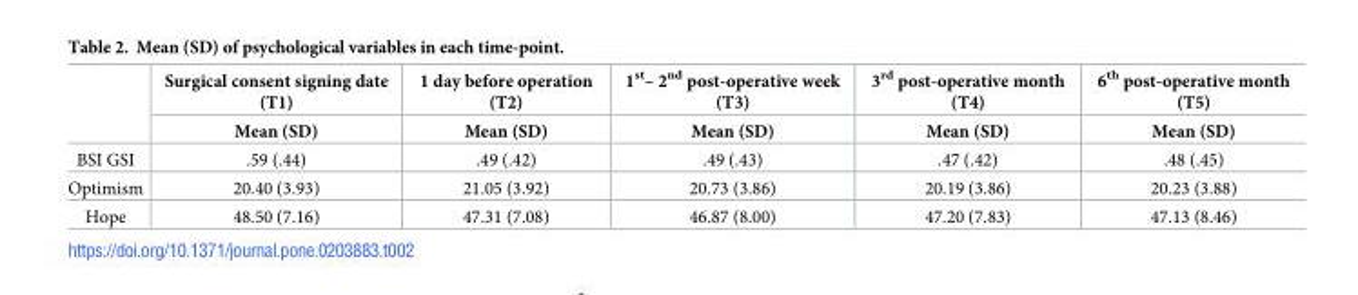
<table><thead><tr><td rowspan="2"></td><td rowspan="2">Surgical consent signing date (T1) Mean (SD)</td><td rowspan="2">1 day before operation (T2) Mean (SD)</td><td rowspan="2">1<sup>st</sup>– 2<sup>nd</sup> post-operative week (T3) Mean (SD)</td><td rowspan="2">3<sup>rd</sup> post-operative month (T4) Mean (SD)</td><td rowspan="2">6<sup>th</sup> post-operative month (T5) Mean (SD)</td></tr><tr></tr></thead><tbody><tr><td>BSI GSI</td><td>.59 (.44)</td><td>.49 (.42)</td><td>.49 (.43)</td><td>.47 (.42)</td><td>.48 (.45)</td></tr><tr><td>Optimism</td><td>20.40 (3.93)</td><td>21.05 (3.92)</td><td>20.73 (3.86)</td><td>20.19 (3.86)</td><td>20.23 (3.88)</td></tr><tr><td>Hope</td><td>48.50 (7.16)</td><td>47.31 (7.08)</td><td>46.87 (8.00)</td><td>47.20 (7.83)</td><td>47.13 (8.46)</td></tr></tbody></table>